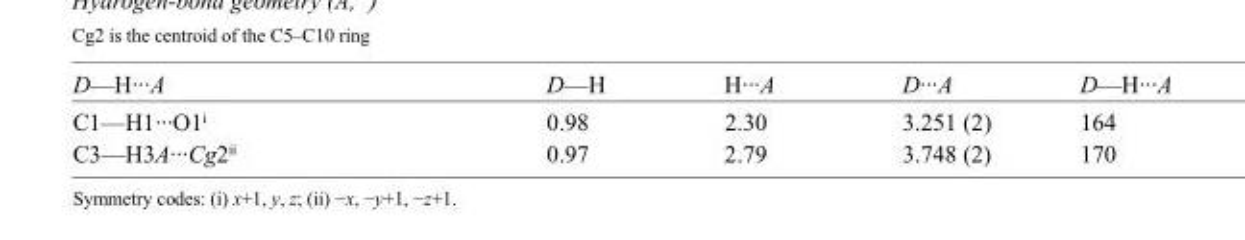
<table><tbody><tr><td>D—H···A</td><td>D—H</td><td>H···A</td><td>D···A</td><td>D—H···A</td></tr><tr><td>C1—H1···O1<sup>i</sup></td><td>0.98</td><td>2.30</td><td>3.251 (2)</td><td>164</td></tr><tr><td>C3—H3A···Cg2<sup>ii</sup></td><td>0.97</td><td>2.79</td><td>3.748 (2)</td><td>170</td></tr></tbody></table>